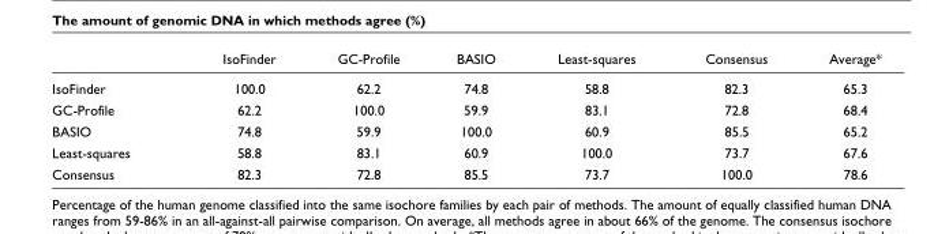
<table><thead><tr><td></td><td>IsoFinder</td><td>GC-Profile</td><td>BASIO</td><td>Least-squares</td><td>Consensus</td><td>Average*</td></tr></thead><tbody><tr><td>IsoFinder</td><td>100.0</td><td>62.2</td><td>74.8</td><td>58.8</td><td>82.3</td><td>65.3</td></tr><tr><td>GC-Profile</td><td>62.2</td><td>100.0</td><td>59.9</td><td>83.1</td><td>72.8</td><td>68.4</td></tr><tr><td>BASIO</td><td>74.8</td><td>59.9</td><td>100.0</td><td>60.9</td><td>85.5</td><td>65.2</td></tr><tr><td>Least-squares</td><td>58.8</td><td>83.1</td><td>60.9</td><td>100.0</td><td>73.7</td><td>67.6</td></tr><tr><td>Consensus</td><td>82.3</td><td>72.8</td><td>85.5</td><td>73.7</td><td>100.0</td><td>78.6</td></tr></tbody></table>